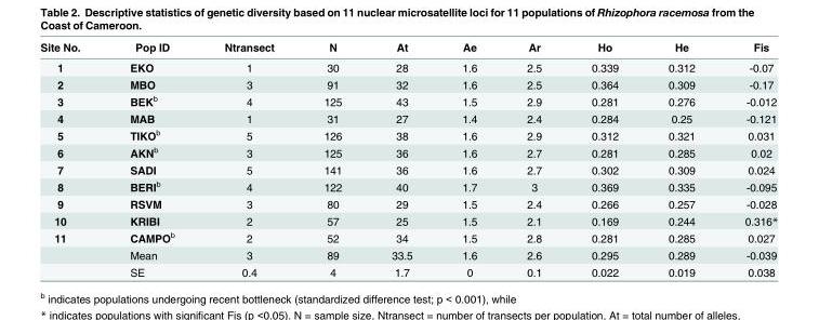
<table><thead><tr><td>Site No.</td><td>Pop ID</td><td>Ntransect</td><td>N</td><td>At</td><td>Ae</td><td>Ar</td><td>Ho</td><td>He</td><td>Fis</td></tr></thead><tbody><tr><td>1</td><td>EKO</td><td>1</td><td>30</td><td>28</td><td>1.6</td><td>2.5</td><td>0.339</td><td>0.312</td><td>-0.07</td></tr><tr><td>2</td><td>MBO</td><td>3</td><td>91</td><td>32</td><td>1.6</td><td>2.5</td><td>0.364</td><td>0.309</td><td>-0.17</td></tr><tr><td>3</td><td>BEK<sup>b</sup></td><td>4</td><td>125</td><td>43</td><td>1.5</td><td>2.9</td><td>0.281</td><td>0.276</td><td>-0.012</td></tr><tr><td>4</td><td>MAB</td><td>1</td><td>31</td><td>27</td><td>1.4</td><td>2.4</td><td>0.284</td><td>0.25</td><td>-0.121</td></tr><tr><td>5</td><td>TIKO<sup>b</sup></td><td>5</td><td>126</td><td>38</td><td>1.6</td><td>2.9</td><td>0.312</td><td>0.321</td><td>0.031</td></tr><tr><td>6</td><td>AKN<sup>b</sup></td><td>3</td><td>125</td><td>36</td><td>1.6</td><td>2.7</td><td>0.281</td><td>0.285</td><td>0.02</td></tr><tr><td>7</td><td>SADI</td><td>5</td><td>141</td><td>36</td><td>1.6</td><td>2.7</td><td>0.302</td><td>0.309</td><td>0.024</td></tr><tr><td>8</td><td>BERI<sup>b</sup></td><td>4</td><td>122</td><td>40</td><td>1.7</td><td>3</td><td>0.369</td><td>0.335</td><td>-0.095</td></tr><tr><td>9</td><td>RSVM</td><td>3</td><td>80</td><td>29</td><td>1.5</td><td>2.4</td><td>0.266</td><td>0.257</td><td>-0.028</td></tr><tr><td>10</td><td>KRIBI</td><td>2</td><td>57</td><td>25</td><td>1.5</td><td>2.1</td><td>0.169</td><td>0.244</td><td>0.316*</td></tr><tr><td rowspan="3">11</td><td>CAMPO<sup>b</sup></td><td>2</td><td>52</td><td>34</td><td>1.5</td><td>2.8</td><td>0.281</td><td>0.285</td><td>0.027</td></tr><tr><td>Mean</td><td>3</td><td>89</td><td>33.5</td><td>1.6</td><td>2.6</td><td>0.295</td><td>0.289</td><td>-0.039</td></tr><tr><td>SE</td><td>0.4</td><td>4</td><td>1.7</td><td>0</td><td>0.1</td><td>0.022</td><td>0.019</td><td>0.038</td></tr></tbody></table>